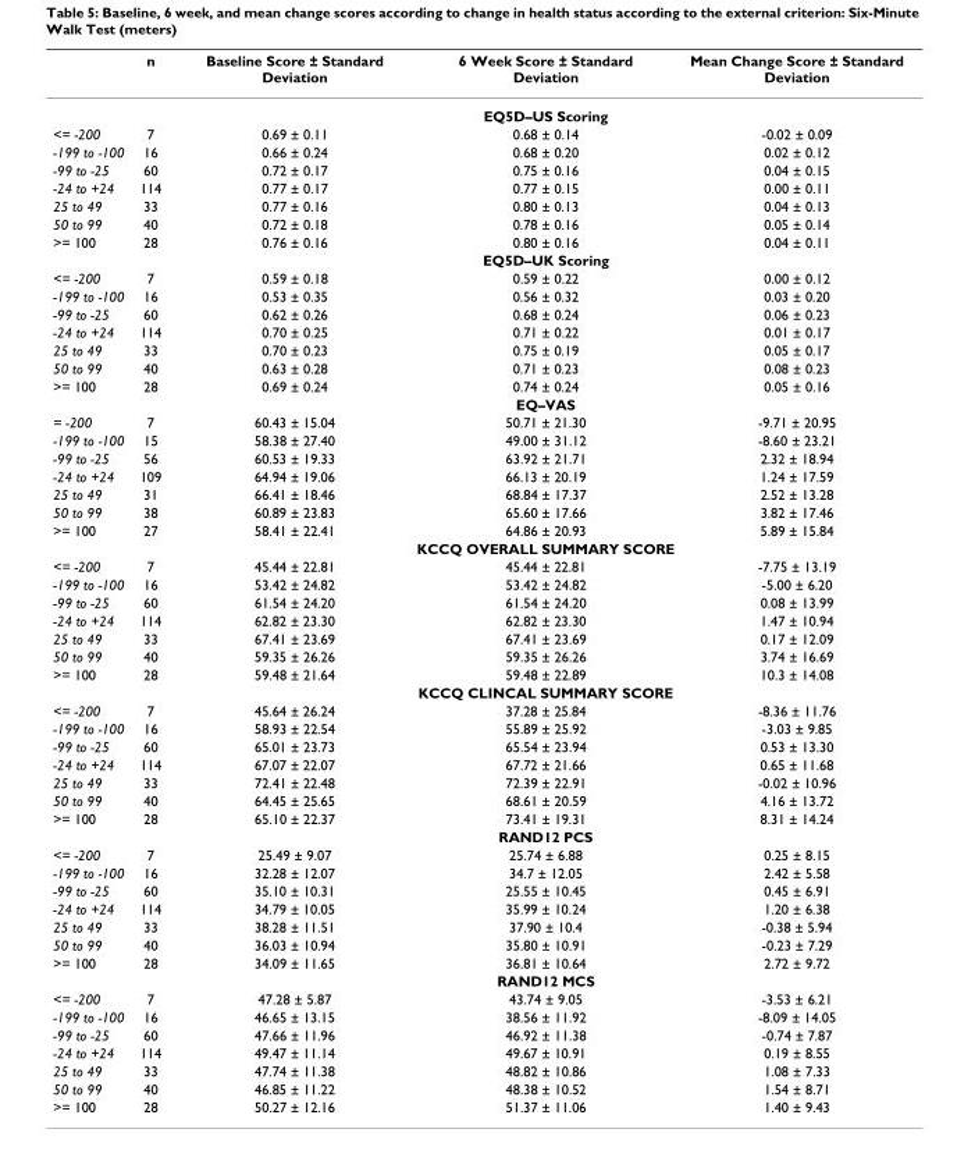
<table><thead><tr><td></td><td>n</td><td>Baseline Score ± Standard Deviation</td><td>6 Week Score ± Standard Deviation</td><td>Mean Change Score ± Standard Deviation</td></tr></thead><tbody><tr><td></td><td></td><td colspan="3">EQ5D–US Scoring</td></tr><tr><td>&lt;= -200</td><td>7</td><td>0.69 ± 0.11</td><td>0.68 ± 0.14</td><td>-0.02 ± 0.09</td></tr><tr><td>-199 to -100</td><td>16</td><td>0.66 ± 0.24</td><td>0.68 ± 0.20</td><td>0.02 ± 0.12</td></tr><tr><td>-99 to -25</td><td>60</td><td>0.72 ± 0.17</td><td>0.75 ± 0.16</td><td>0.04 ± 0.15</td></tr><tr><td>-24 to +24</td><td>114</td><td>0.77 ± 0.17</td><td>0.77 ± 0.15</td><td>0.00 ± 0.11</td></tr><tr><td>25 to 49</td><td>33</td><td>0.77 ± 0.16</td><td>0.80 ± 0.13</td><td>0.04 ± 0.13</td></tr><tr><td>50 to 99</td><td>40</td><td>0.72 ± 0.18</td><td>0.78 ± 0.16</td><td>0.05 ± 0.14</td></tr><tr><td rowspan="2">&gt;= 100</td><td>28</td><td>0.76 ± 0.16</td><td>0.80 ± 0.16</td><td>0.04 ± 0.11</td></tr><tr><td></td><td colspan="3">EQ5D–UK Scoring</td></tr><tr><td>&lt;= -200</td><td>7</td><td>0.59 ± 0.18</td><td>0.59 ± 0.22</td><td>0.00 ± 0.12</td></tr><tr><td>-199 to -100</td><td>16</td><td>0.53 ± 0.35</td><td>0.56 ± 0.32</td><td>0.03 ± 0.20</td></tr><tr><td>-99 to -25</td><td>60</td><td>0.62 ± 0.26</td><td>0.68 ± 0.24</td><td>0.06 ± 0.23</td></tr><tr><td>-24 to +24</td><td>114</td><td>0.70 ± 0.25</td><td>0.71 ± 0.22</td><td>0.01 ± 0.17</td></tr><tr><td>25 to 49</td><td>33</td><td>0.70 ± 0.23</td><td>0.75 ± 0.19</td><td>0.05 ± 0.17</td></tr><tr><td>50 to 99</td><td>40</td><td>0.63 ± 0.28</td><td>0.71 ± 0.23</td><td>0.08 ± 0.23</td></tr><tr><td rowspan="2">&gt;= 100</td><td>28</td><td>0.69 ± 0.24</td><td>0.74 ± 0.24</td><td>0.05 ± 0.16</td></tr><tr><td></td><td colspan="3">EQ–VAS</td></tr><tr><td>= -200</td><td>7</td><td>60.43 ± 15.04</td><td>50.71 ± 21.30</td><td>-9.71 ± 20.95</td></tr><tr><td>-199 to -100</td><td>15</td><td>58.38 ± 27.40</td><td>49.00 ± 31.12</td><td>-8.60 ± 23.21</td></tr><tr><td>-99 to -25</td><td>56</td><td>60.53 ± 19.33</td><td>63.92 ± 21.71</td><td>2.32 ± 18.94</td></tr><tr><td>-24 to +24</td><td>109</td><td>64.94 ± 19.06</td><td>66.13 ± 20.19</td><td>1.24 ± 17.59</td></tr><tr><td>25 to 49</td><td>31</td><td>66.41 ± 18.46</td><td>68.84 ± 17.37</td><td>2.52 ± 13.28</td></tr><tr><td>50 to 99</td><td>38</td><td>60.89 ± 23.83</td><td>65.60 ± 17.66</td><td>3.82 ± 17.46</td></tr><tr><td rowspan="2">&gt;= 100</td><td>27</td><td>58.41 ± 22.41</td><td>64.86 ± 20.93</td><td>5.89 ± 15.84</td></tr><tr><td></td><td colspan="3">KCCQ OVERALL SUMMARY SCORE</td></tr><tr><td>&lt;= -200</td><td>7</td><td>45.44 ± 22.81</td><td>45.44 ± 22.81</td><td>-7.75 ± 13.19</td></tr><tr><td>-199 to -100</td><td>16</td><td>53.42 ± 24.82</td><td>53.42 ± 24.82</td><td>-5.00 ± 6.20</td></tr><tr><td>-99 to -25</td><td>60</td><td>61.54 ± 24.20</td><td>61.54 ± 24.20</td><td>0.08 ± 13.99</td></tr><tr><td>-24 to +24</td><td>114</td><td>62.82 ± 23.30</td><td>62.82 ± 23.30</td><td>1.47 ± 10.94</td></tr><tr><td>25 to 49</td><td>33</td><td>67.41 ± 23.69</td><td>67.41 ± 23.69</td><td>0.17 ± 12.09</td></tr><tr><td>50 to 99</td><td>40</td><td>59.35 ± 26.26</td><td>59.35 ± 26.26</td><td>3.74 ± 16.69</td></tr><tr><td rowspan="2">&gt;= 100</td><td>28</td><td>59.48 ± 21.64</td><td>59.48 ± 22.89</td><td>10.3 ± 14.08</td></tr><tr><td></td><td colspan="3">KCCQ CLINCAL SUMMARY SCORE</td></tr><tr><td>&lt;= -200</td><td>7</td><td>45.64 ± 26.24</td><td>37.28 ± 25.84</td><td>-8.36 ± 11.76</td></tr><tr><td>-199 to -100</td><td>16</td><td>58.93 ± 22.54</td><td>55.89 ± 25.92</td><td>-3.03 ± 9.85</td></tr><tr><td>-99 to -25</td><td>60</td><td>65.01 ± 23.73</td><td>65.54 ± 23.94</td><td>0.53 ± 13.30</td></tr><tr><td>-24 to +24</td><td>114</td><td>67.07 ± 22.07</td><td>67.72 ± 21.66</td><td>0.65 ± 11.68</td></tr><tr><td>25 to 49</td><td>33</td><td>72.41 ± 22.48</td><td>72.39 ± 22.91</td><td>-0.02 ± 10.96</td></tr><tr><td>50 to 99</td><td>40</td><td>64.45 ± 25.65</td><td>68.61 ± 20.59</td><td>4.16 ± 13.72</td></tr><tr><td rowspan="2">&gt;= 100</td><td>28</td><td>65.10 ± 22.37</td><td>73.41 ± 19.31</td><td>8.31 ± 14.24</td></tr><tr><td></td><td colspan="3">RAND12 PCS</td></tr><tr><td>&lt;= -200</td><td>7</td><td>25.49 ± 9.07</td><td>25.74 ± 6.88</td><td>0.25 ± 8.15</td></tr><tr><td>-199 to -100</td><td>16</td><td>32.28 ± 12.07</td><td>34.7 ± 12.05</td><td>2.42 ± 5.58</td></tr><tr><td>-99 to -25</td><td>60</td><td>35.10 ± 10.31</td><td>25.55 ± 10.45</td><td>0.45 ± 6.91</td></tr><tr><td>-24 to +24</td><td>114</td><td>34.79 ± 10.05</td><td>35.99 ± 10.24</td><td>1.20 ± 6.38</td></tr><tr><td>25 to 49</td><td>33</td><td>38.28 ± 11.51</td><td>37.90 ± 10.4</td><td>-0.38 ± 5.94</td></tr><tr><td>50 to 99</td><td>40</td><td>36.03 ± 10.94</td><td>35.80 ± 10.91</td><td>-0.23 ± 7.29</td></tr><tr><td rowspan="2">&gt;= 100</td><td>28</td><td>34.09 ± 11.65</td><td>36.81 ± 10.64</td><td>2.72 ± 9.72</td></tr><tr><td></td><td colspan="3">RAND12 MCS</td></tr><tr><td>&lt;= -200</td><td>7</td><td>47.28 ± 5.87</td><td>43.74 ± 9.05</td><td>-3.53 ± 6.21</td></tr><tr><td>-199 to -100</td><td>16</td><td>46.65 ± 13.15</td><td>38.56 ± 11.92</td><td>-8.09 ± 14.05</td></tr><tr><td>-99 to -25</td><td>60</td><td>47.66 ± 11.96</td><td>46.92 ± 11.38</td><td>-0.74 ± 7.87</td></tr><tr><td>-24 to +24</td><td>114</td><td>49.47 ± 11.14</td><td>49.67 ± 10.91</td><td>0.19 ± 8.55</td></tr><tr><td>25 to 49</td><td>33</td><td>47.74 ± 11.38</td><td>48.82 ± 10.86</td><td>1.08 ± 7.33</td></tr><tr><td>50 to 99</td><td>40</td><td>46.85 ± 11.22</td><td>48.38 ± 10.52</td><td>1.54 ± 8.71</td></tr><tr><td>&gt;= 100</td><td>28</td><td>50.27 ± 12.16</td><td>51.37 ± 11.06</td><td>1.40 ± 9.43</td></tr></tbody></table>